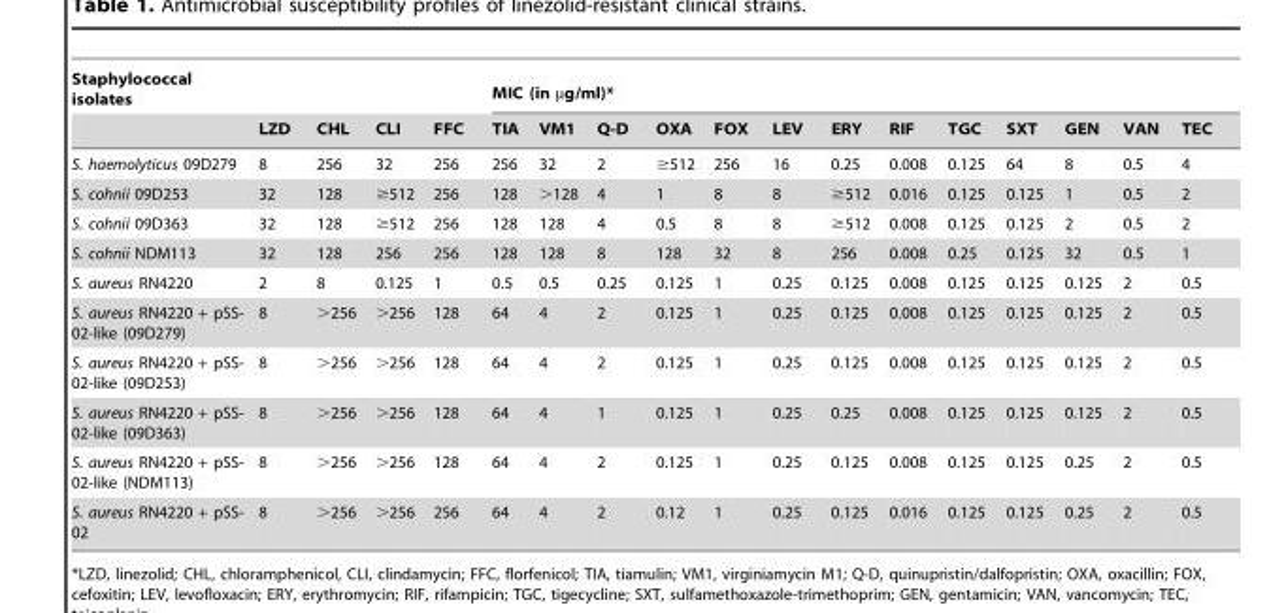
<table><thead><tr><td rowspan="2">Staphylococcal isolates</td><td rowspan="2">LZD</td><td rowspan="2">CHL</td><td rowspan="2">CLI</td><td rowspan="2">FFC</td><td colspan="13">MIC (in µg/ml)*</td></tr><tr><td>TIA</td><td>VM1</td><td>Q-D</td><td>OXA</td><td>FOX</td><td>LEV</td><td>ERY</td><td>RIF</td><td>TGC</td><td>SXT</td><td>GEN</td><td>VAN</td><td>TEC</td></tr></thead><tbody><tr><td>S. haemolyticus 09D279</td><td>8</td><td>256</td><td>32</td><td>256</td><td>256</td><td>32</td><td>2</td><td>≥512</td><td>256</td><td>16</td><td>0.25</td><td>0.008</td><td>0.125</td><td>64</td><td>8</td><td>0.5</td><td>4</td></tr><tr><td>S. cohnii 09D253</td><td>32</td><td>128</td><td>≥512</td><td>256</td><td>128</td><td>&gt;128</td><td>4</td><td>1</td><td>8</td><td>8</td><td>≥512</td><td>0.016</td><td>0.125</td><td>0.125</td><td>1</td><td>0.5</td><td>2</td></tr><tr><td>S. cohnii 09D363</td><td>32</td><td>128</td><td>≥512</td><td>256</td><td>128</td><td>128</td><td>4</td><td>0.5</td><td>8</td><td>8</td><td>≥512</td><td>0.008</td><td>0.125</td><td>0.125</td><td>2</td><td>0.5</td><td>2</td></tr><tr><td>S. cohnii NDM113</td><td>32</td><td>128</td><td>256</td><td>256</td><td>128</td><td>128</td><td>8</td><td>128</td><td>32</td><td>8</td><td>256</td><td>0.008</td><td>0.25</td><td>0.125</td><td>32</td><td>0.5</td><td>1</td></tr><tr><td>S. aureus RN4220</td><td>2</td><td>8</td><td>0.125</td><td>1</td><td>0.5</td><td>0.5</td><td>0.25</td><td>0.125</td><td>1</td><td>0.25</td><td>0.125</td><td>0.008</td><td>0.125</td><td>0.125</td><td>0.125</td><td>2</td><td>0.5</td></tr><tr><td>S. aureus RN4220 + pSS- 02-like (09D279)</td><td>8</td><td>&gt;256</td><td>&gt;256</td><td>128</td><td>64</td><td>4</td><td>2</td><td>0.125</td><td>1</td><td>0.25</td><td>0.125</td><td>0.008</td><td>0.125</td><td>0.125</td><td>0.125</td><td>2</td><td>0.5</td></tr><tr><td>S. aureus RN4220 + pSS- 02-like (09D253)</td><td>8</td><td>&gt;256</td><td>&gt;256</td><td>128</td><td>64</td><td>4</td><td>2</td><td>0.125</td><td>1</td><td>0.25</td><td>0.125</td><td>0.008</td><td>0.125</td><td>0.125</td><td>0.125</td><td>2</td><td>0.5</td></tr><tr><td>S. aureus RN4220 + pSS- 02-like (09D363)</td><td>8</td><td>&gt;256</td><td>&gt;256</td><td>128</td><td>64</td><td>4</td><td>1</td><td>0.125</td><td>1</td><td>0.25</td><td>0.25</td><td>0.008</td><td>0.125</td><td>0.125</td><td>0.125</td><td>2</td><td>0.5</td></tr><tr><td>S. aureus RN4220 + pSS- 02-like (NDM113)</td><td>8</td><td>&gt;256</td><td>&gt;256</td><td>128</td><td>64</td><td>4</td><td>2</td><td>0.125</td><td>1</td><td>0.25</td><td>0.125</td><td>0.008</td><td>0.125</td><td>0.125</td><td>0.25</td><td>2</td><td>0.5</td></tr><tr><td>S. aureus RN4220 + pSS- 02</td><td>8</td><td>&gt;256</td><td>&gt;256</td><td>256</td><td>64</td><td>4</td><td>2</td><td>0.12</td><td>1</td><td>0.25</td><td>0.125</td><td>0.016</td><td>0.125</td><td>0.125</td><td>0.25</td><td>2</td><td>0.5</td></tr></tbody></table>